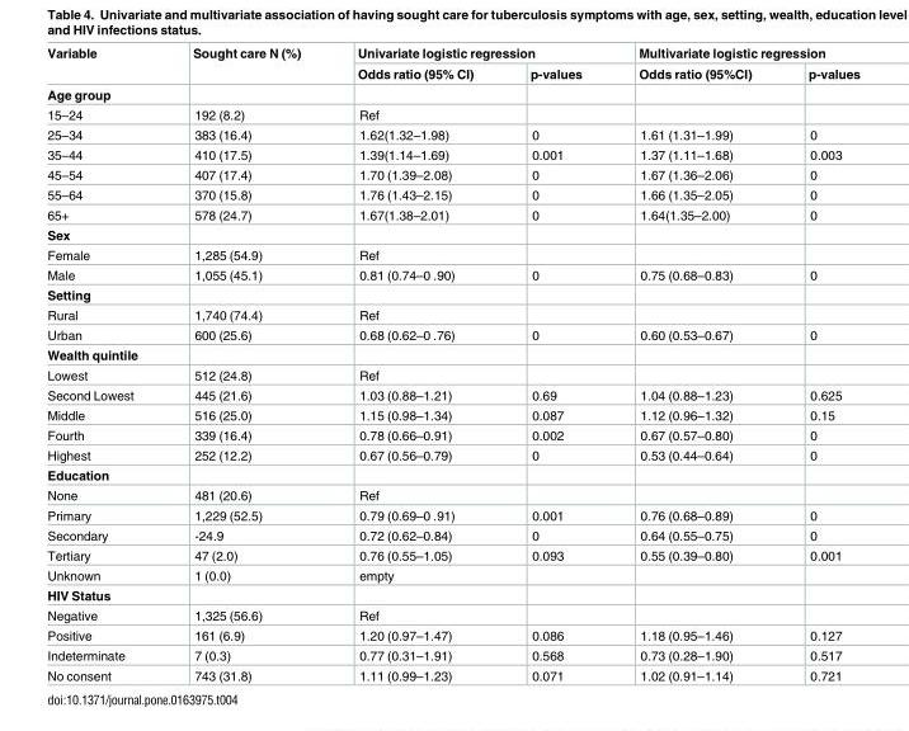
<table><thead><tr><td rowspan="2">Variable</td><td rowspan="2">Sought care N (%)</td><td colspan="2">Univariate logistic regression</td><td colspan="2">Multivariate logistic regression</td></tr><tr><td>Odds ratio (95% CI)</td><td>p-values</td><td>Odds ratio (95%CI)</td><td>p-values</td></tr></thead><tbody><tr><td colspan="6">Age group</td></tr><tr><td>15–24</td><td>192 (8.2)</td><td>Ref</td><td></td><td></td><td></td></tr><tr><td>25–34</td><td>383 (16.4)</td><td>1.62(1.32–1.98)</td><td>0</td><td>1.61 (1.31–1.99)</td><td>0</td></tr><tr><td>35–44</td><td>410 (17.5)</td><td>1.39(1.14–1.69)</td><td>0.001</td><td>1.37 (1.11–1.68)</td><td>0.003</td></tr><tr><td>45–54</td><td>407 (17.4)</td><td>1.70 (1.39–2.08)</td><td>0</td><td>1.67 (1.36–2.06)</td><td>0</td></tr><tr><td>55–64</td><td>370 (15.8)</td><td>1.76 (1.43–2.15)</td><td>0</td><td>1.66 (1.35–2.05)</td><td>0</td></tr><tr><td>65+</td><td>578 (24.7)</td><td>1.67(1.38–2.01)</td><td>0</td><td>1.64(1.35–2.00)</td><td>0</td></tr><tr><td colspan="6">Sex</td></tr><tr><td>Female</td><td>1,285 (54.9)</td><td>Ref</td><td></td><td></td><td></td></tr><tr><td>Male</td><td>1,055 (45.1)</td><td>0.81 (0.74–0 .90)</td><td>0</td><td>0.75 (0.68–0.83)</td><td>0</td></tr><tr><td colspan="6">Setting</td></tr><tr><td>Rural</td><td>1,740 (74.4)</td><td>Ref</td><td></td><td></td><td></td></tr><tr><td>Urban</td><td>600 (25.6)</td><td>0.68 (0.62–0 .76)</td><td>0</td><td>0.60 (0.53–0.67)</td><td>0</td></tr><tr><td colspan="6">Wealth quintile</td></tr><tr><td>Lowest</td><td>512 (24.8)</td><td>Ref</td><td></td><td></td><td></td></tr><tr><td>Second Lowest</td><td>445 (21.6)</td><td>1.03 (0.88–1.21)</td><td>0.69</td><td>1.04 (0.88–1.23)</td><td>0.625</td></tr><tr><td>Middle</td><td>516 (25.0)</td><td>1.15 (0.98–1.34)</td><td>0.087</td><td>1.12 (0.96–1.32)</td><td>0.15</td></tr><tr><td>Fourth</td><td>339 (16.4)</td><td>0.78 (0.66–0.91)</td><td>0.002</td><td>0.67 (0.57–0.80)</td><td>0</td></tr><tr><td>Highest</td><td>252 (12.2)</td><td>0.67 (0.56–0.79)</td><td>0</td><td>0.53 (0.44–0.64)</td><td>0</td></tr><tr><td colspan="6">Education</td></tr><tr><td>None</td><td>481 (20.6)</td><td>Ref</td><td></td><td></td><td></td></tr><tr><td>Primary</td><td>1,229 (52.5)</td><td>0.79 (0.69–0 .91)</td><td>0.001</td><td>0.76 (0.68–0.89)</td><td>0</td></tr><tr><td>Secondary</td><td>-24.9</td><td>0.72 (0.62–0.84)</td><td>0</td><td>0.64 (0.55–0.75)</td><td>0</td></tr><tr><td>Tertiary</td><td>47 (2.0)</td><td>0.76 (0.55–1.05)</td><td>0.093</td><td>0.55 (0.39–0.80)</td><td>0.001</td></tr><tr><td>Unknown</td><td>1 (0.0)</td><td>empty</td><td></td><td></td><td></td></tr><tr><td colspan="6">HIV Status</td></tr><tr><td>Negative</td><td>1,325 (56.6)</td><td>Ref</td><td></td><td></td><td></td></tr><tr><td>Positive</td><td>161 (6.9)</td><td>1.20 (0.97–1.47)</td><td>0.086</td><td>1.18 (0.95–1.46)</td><td>0.127</td></tr><tr><td>Indeterminate</td><td>7 (0.3)</td><td>0.77 (0.31–1.91)</td><td>0.568</td><td>0.73 (0.28–1.90)</td><td>0.517</td></tr><tr><td>No consent</td><td>743 (31.8)</td><td>1.11 (0.99–1.23)</td><td>0.071</td><td>1.02 (0.91–1.14)</td><td>0.721</td></tr></tbody></table>